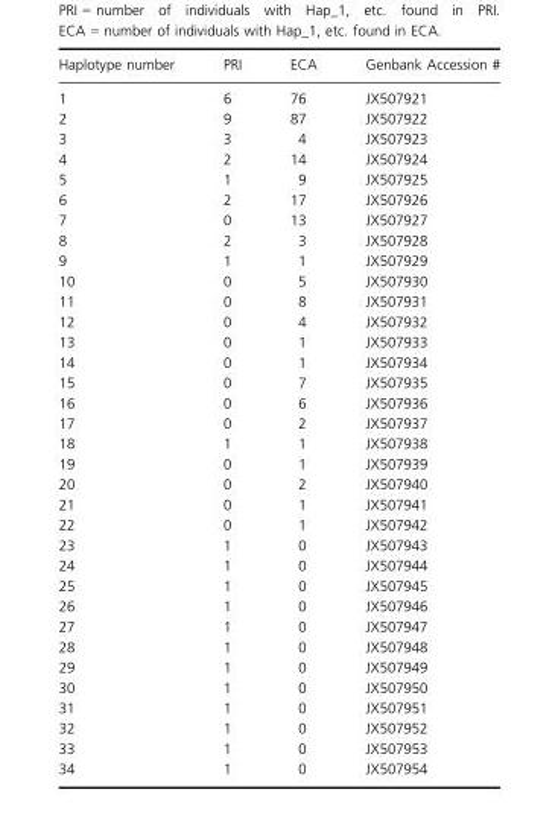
<table><thead><tr><td>Haplotype number</td><td>PRI</td><td>ECA</td><td>Genbank Accession #</td></tr></thead><tbody><tr><td>1</td><td>6</td><td>76</td><td>JX507921</td></tr><tr><td>2</td><td>9</td><td>87</td><td>JX507922</td></tr><tr><td>3</td><td>3</td><td>4</td><td>JX507923</td></tr><tr><td>4</td><td>2</td><td>14</td><td>JX507924</td></tr><tr><td>5</td><td>1</td><td>9</td><td>JX507925</td></tr><tr><td>6</td><td>2</td><td>17</td><td>JX507926</td></tr><tr><td>7</td><td>0</td><td>13</td><td>JX507927</td></tr><tr><td>8</td><td>2</td><td>3</td><td>JX507928</td></tr><tr><td>9</td><td>1</td><td>1</td><td>JX507929</td></tr><tr><td>10</td><td>0</td><td>5</td><td>JX507930</td></tr><tr><td>11</td><td>0</td><td>8</td><td>JX507931</td></tr><tr><td>12</td><td>0</td><td>4</td><td>JX507932</td></tr><tr><td>13</td><td>0</td><td>1</td><td>JX507933</td></tr><tr><td>14</td><td>0</td><td>1</td><td>JX507934</td></tr><tr><td>15</td><td>0</td><td>7</td><td>JX507935</td></tr><tr><td>16</td><td>0</td><td>6</td><td>JX507936</td></tr><tr><td>17</td><td>0</td><td>2</td><td>JX507937</td></tr><tr><td>18</td><td>1</td><td>1</td><td>JX507938</td></tr><tr><td>19</td><td>0</td><td>1</td><td>JX507939</td></tr><tr><td>20</td><td>0</td><td>2</td><td>JX507940</td></tr><tr><td>21</td><td>0</td><td>1</td><td>JX507941</td></tr><tr><td>22</td><td>0</td><td>1</td><td>JX507942</td></tr><tr><td>23</td><td>1</td><td>0</td><td>JX507943</td></tr><tr><td>24</td><td>1</td><td>0</td><td>JX507944</td></tr><tr><td>25</td><td>1</td><td>0</td><td>JX507945</td></tr><tr><td>26</td><td>1</td><td>0</td><td>JX507946</td></tr><tr><td>27</td><td>1</td><td>0</td><td>JX507947</td></tr><tr><td>28</td><td>1</td><td>0</td><td>JX507948</td></tr><tr><td>29</td><td>1</td><td>0</td><td>JX507949</td></tr><tr><td>30</td><td>1</td><td>0</td><td>JX507950</td></tr><tr><td>31</td><td>1</td><td>0</td><td>JX507951</td></tr><tr><td>32</td><td>1</td><td>0</td><td>JX507952</td></tr><tr><td>33</td><td>1</td><td>0</td><td>JX507953</td></tr><tr><td>34</td><td>1</td><td>0</td><td>JX507954</td></tr></tbody></table>